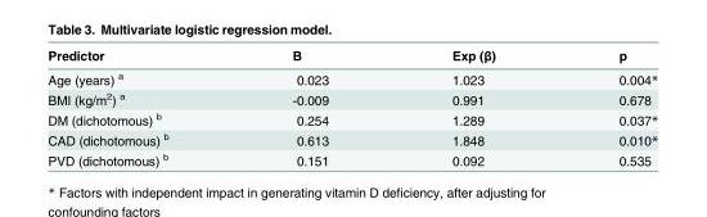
<table><thead><tr><td>Predictor</td><td>B</td><td>Exp (β)</td><td>p</td></tr></thead><tbody><tr><td>Age (years) <sup>a</sup></td><td>0.023</td><td>1.023</td><td>0.004*</td></tr><tr><td>BMI (kg/m<sup>2</sup>) <sup>a</sup></td><td>-0.009</td><td>0.991</td><td>0.678</td></tr><tr><td>DM (dichotomous) <sup>b</sup></td><td>0.254</td><td>1.289</td><td>0.037*</td></tr><tr><td>CAD (dichotomous) <sup>b</sup></td><td>0.613</td><td>1.848</td><td>0.010*</td></tr><tr><td>PVD (dichotomous) <sup>b</sup></td><td>0.151</td><td>0.092</td><td>0.535</td></tr></tbody></table>